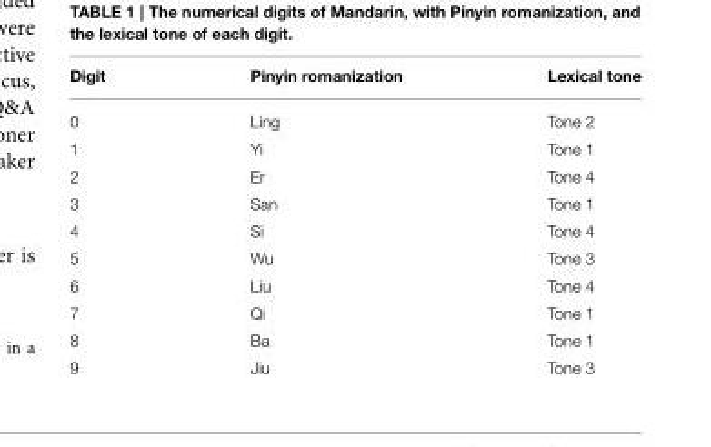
<table><thead><tr><td>Digit</td><td>Pinyin romanization</td><td>Lexical tone</td></tr></thead><tbody><tr><td>0</td><td>Ling</td><td>Tone 2</td></tr><tr><td>1</td><td>Yi</td><td>Tone 1</td></tr><tr><td>2</td><td>Er</td><td>Tone 4</td></tr><tr><td>3</td><td>San</td><td>Tone 1</td></tr><tr><td>4</td><td>Si</td><td>Tone 4</td></tr><tr><td>5</td><td>Wu</td><td>Tone 3</td></tr><tr><td>6</td><td>Liu</td><td>Tone 4</td></tr><tr><td>7</td><td>Qi</td><td>Tone 1</td></tr><tr><td>8</td><td>Ba</td><td>Tone 1</td></tr><tr><td>9</td><td>Jiu</td><td>Tone 3</td></tr></tbody></table>